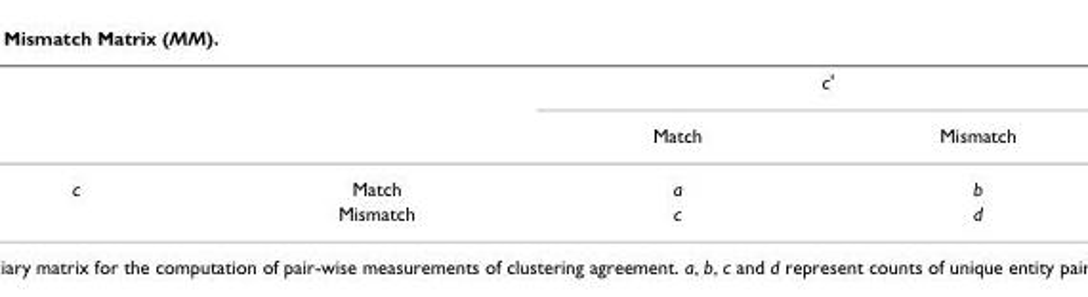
<table><thead><tr><td rowspan="2"></td><td rowspan="2"></td><td colspan="2">c&#x27;</td></tr><tr><td>Match</td><td>Mismatch</td></tr></thead><tbody><tr><td rowspan="2">c</td><td>Match</td><td>a</td><td>b</td></tr><tr><td>Mismatch</td><td>c</td><td>d</td></tr></tbody></table>